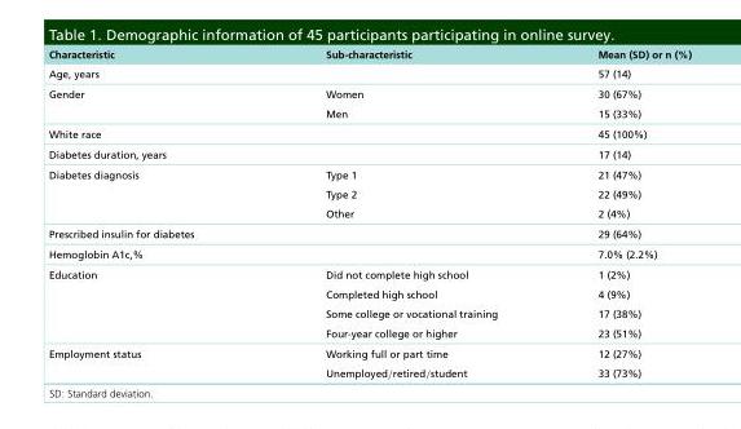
<table><thead><tr><td>Characteristic</td><td>Sub-characteristic</td><td>Mean (SD) or n (%)</td></tr></thead><tbody><tr><td>Age, years</td><td></td><td>57 (14)</td></tr><tr><td rowspan="2">Gender</td><td>Women</td><td>30 (67%)</td></tr><tr><td>Men</td><td>15 (33%)</td></tr><tr><td>White race</td><td></td><td>45 (100%)</td></tr><tr><td>Diabetes duration, years</td><td></td><td>17 (14)</td></tr><tr><td rowspan="3">Diabetes diagnosis</td><td>Type 1</td><td>21 (47%)</td></tr><tr><td>Type 2</td><td>22 (49%)</td></tr><tr><td>Other</td><td>2 (4%)</td></tr><tr><td>Prescribed insulin for diabetes</td><td></td><td>29 (64%)</td></tr><tr><td>Hemoglobin A1c,%</td><td></td><td>7.0% (2.2%)</td></tr><tr><td rowspan="4">Education</td><td>Did not complete high school</td><td>1 (2%)</td></tr><tr><td>Completed high school</td><td>4 (9%)</td></tr><tr><td>Some college or vocational training</td><td>17 (38%)</td></tr><tr><td>Four-year college or higher</td><td>23 (51%)</td></tr><tr><td rowspan="2">Employment status</td><td>Working full or part time</td><td>12 (27%)</td></tr><tr><td>Unemployed/retired/student</td><td>33 (73%)</td></tr></tbody></table>